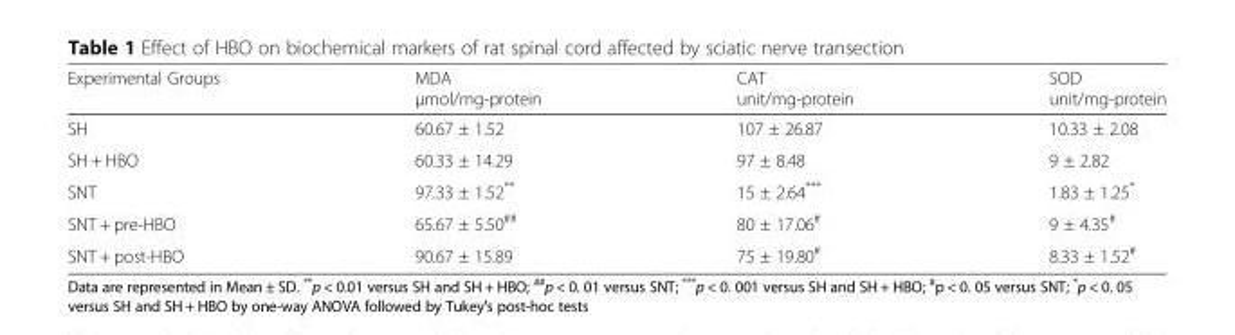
<table><thead><tr><td>Experimental Groups</td><td>MDA μmol/mg-protein</td><td>CAT unit/mg-protein</td><td>SOD unit/mg-protein</td></tr></thead><tbody><tr><td>SH</td><td>60.67 ± 1.52</td><td>107 ± 26.87</td><td>10.33 ± 2.08</td></tr><tr><td>SH + HBO</td><td>60.33 ± 14.29</td><td>97 ± 8.48</td><td>9 ± 2.82</td></tr><tr><td>SNT</td><td>97.33 ± 1.52**</td><td>15 ± 2.64***</td><td>1.83 ± 1.25*</td></tr><tr><td>SNT + pre-HBO</td><td>65.67 ± 5.50<sup>##</sup></td><td>80 ± 17.06<sup>#</sup></td><td>9 ± 4.35<sup>#</sup></td></tr><tr><td>SNT + post-HBO</td><td>90.67 ± 15.89</td><td>75 ± 19.80<sup>#</sup></td><td>8.33 ± 1.52<sup>#</sup></td></tr></tbody></table>